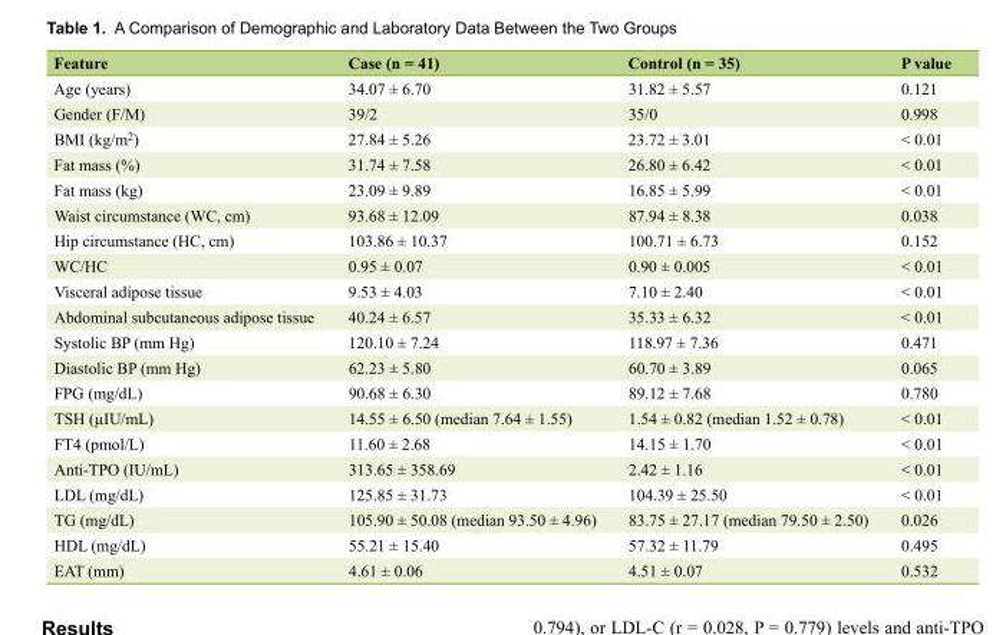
<table><thead><tr><td>Feature</td><td>Case (n = 41)</td><td>Control (n = 35)</td><td>P value</td></tr></thead><tbody><tr><td>Age (years)</td><td>34.07 ± 6.70</td><td>31.82 ± 5.57</td><td>0.121</td></tr><tr><td>Gender (F/M)</td><td>39/2</td><td>35/0</td><td>0.998</td></tr><tr><td>BMI (kg/m<sup>2</sup>)</td><td>27.84 ± 5.26</td><td>23.72 ± 3.01</td><td>&lt; 0.01</td></tr><tr><td>Fat mass (%)</td><td>31.74 ± 7.58</td><td>26.80 ± 6.42</td><td>&lt; 0.01</td></tr><tr><td>Fat mass (kg)</td><td>23.09 ± 9.89</td><td>16.85 ± 5.99</td><td>&lt; 0.01</td></tr><tr><td>Waist circumstance (WC, cm)</td><td>93.68 ± 12.09</td><td>87.94 ± 8.38</td><td>0.038</td></tr><tr><td>Hip circumstance (HC, cm)</td><td>103.86 ± 10.37</td><td>100.71 ± 6.73</td><td>0.152</td></tr><tr><td>WC/HC</td><td>0.95 ± 0.07</td><td>0.90 ± 0.005</td><td>&lt; 0.01</td></tr><tr><td>Visceral adipose tissue</td><td>9.53 ± 4.03</td><td>7.10 ± 2.40</td><td>&lt; 0.01</td></tr><tr><td>Abdominal subcutaneous adipose tissue</td><td>40.24 ± 6.57</td><td>35.33 ± 6.32</td><td>&lt; 0.01</td></tr><tr><td>Systolic BP (mm Hg)</td><td>120.10 ± 7.24</td><td>118.97 ± 7.36</td><td>0.471</td></tr><tr><td>Diastolic BP (mm Hg)</td><td>62.23 ± 5.80</td><td>60.70 ± 3.89</td><td>0.065</td></tr><tr><td>FPG (mg/dL)</td><td>90.68 ± 6.30</td><td>89.12 ± 7.68</td><td>0.780</td></tr><tr><td>TSH (µIU/mL)</td><td>14.55 ± 6.50 (median 7.64 ± 1.55)</td><td>1.54 ± 0.82 (median 1.52 ± 0.78)</td><td>&lt; 0.01</td></tr><tr><td>FT4 (pmol/L)</td><td>11.60 ± 2.68</td><td>14.15 ± 1.70</td><td>&lt; 0.01</td></tr><tr><td>Anti-TPO (IU/mL)</td><td>313.65 ± 358.69</td><td>2.42 ± 1.16</td><td>&lt; 0.01</td></tr><tr><td>LDL (mg/dL)</td><td>125.85 ± 31.73</td><td>104.39 ± 25.50</td><td>&lt; 0.01</td></tr><tr><td>TG (mg/dL)</td><td>105.90 ± 50.08 (median 93.50 ± 4.96)</td><td>83.75 ± 27.17 (median 79.50 ± 2.50)</td><td>0.026</td></tr><tr><td>HDL (mg/dL)</td><td>55.21 ± 15.40</td><td>57.32 ± 11.79</td><td>0.495</td></tr><tr><td>EAT (mm)</td><td>4.61 ± 0.06</td><td>4.51 ± 0.07</td><td>0.532</td></tr></tbody></table>